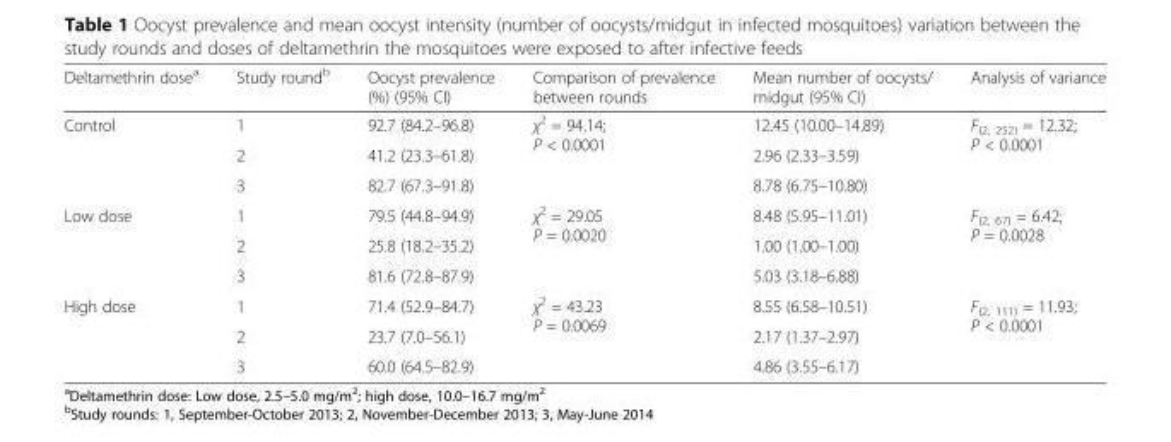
<table><thead><tr><td>Deltamethrin dose<sup>a</sup></td><td>Study round<sup>b</sup></td><td>Oocyst prevalence (%) (95% CI)</td><td>Comparison of prevalence between rounds</td><td>Mean number of oocysts/ midgut (95% CI)</td><td>Analysis of variance</td></tr></thead><tbody><tr><td rowspan="3">Control</td><td>1</td><td>92.7 (84.2–96.8)</td><td rowspan="3">χ<sup>2</sup> = 94.14; P &lt; 0.0001</td><td>12.45 (10.00–14.89)</td><td rowspan="3">F<sub>(2, 252)</sub> = 12.32; P &lt; 0.0001</td></tr><tr><td>2</td><td>41.2 (23.3–61.8)</td><td>2.96 (2.33–3.59)</td></tr><tr><td>3</td><td>82.7 (67.3–91.8)</td><td>8.78 (6.75–10.80)</td></tr><tr><td rowspan="3">Low dose</td><td>1</td><td>79.5 (44.8–94.9)</td><td rowspan="3">χ<sup>2</sup> = 29.05 P = 0.0020</td><td>8.48 (5.95–11.01)</td><td rowspan="3">F<sub>(2, 67)</sub> = 6.42; P = 0.0028</td></tr><tr><td>2</td><td>25.8 (18.2–35.2)</td><td>1.00 (1.00–1.00)</td></tr><tr><td>3</td><td>81.6 (72.8–87.9)</td><td>5.03 (3.18–6.88)</td></tr><tr><td rowspan="3">High dose</td><td>1</td><td>71.4 (52.9–84.7)</td><td rowspan="3">χ<sup>2</sup> = 43.23 P = 0.0069</td><td>8.55 (6.58–10.51)</td><td rowspan="3">F<sub>(2, 111)</sub> = 11.93; P &lt; 0.0001</td></tr><tr><td>2</td><td>23.7 (7.0–56.1)</td><td>2.17 (1.37–2.97)</td></tr><tr><td>3</td><td>60.0 (64.5–82.9)</td><td>4.86 (3.55–6.17)</td></tr></tbody></table>